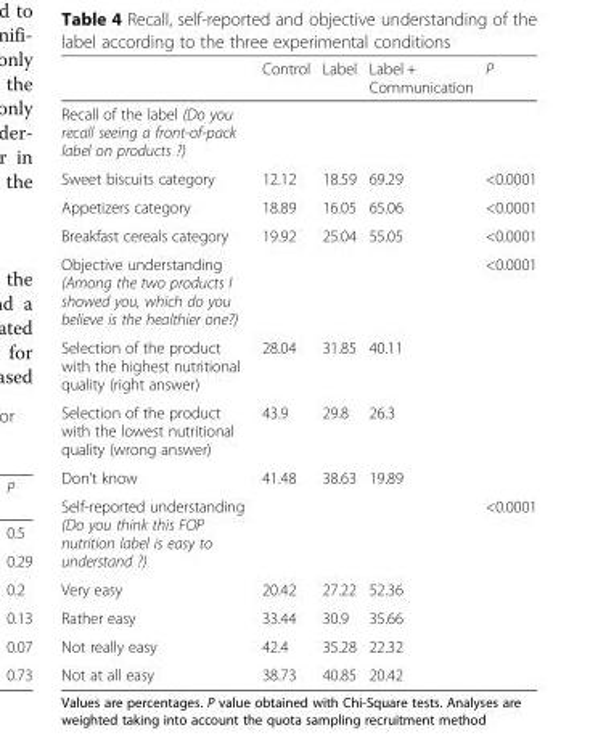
<table><thead><tr><td></td><td>Control</td><td>Label</td><td>Label + Communication</td><td>P</td></tr></thead><tbody><tr><td colspan="5">Recall of the label (Do you recall seeing a front-of-pack label on products ?)</td></tr><tr><td>Sweet biscuits category</td><td>12.12</td><td>18.59</td><td>69.29</td><td>&lt;0.0001</td></tr><tr><td>Appetizers category</td><td>18.89</td><td>16.05</td><td>65.06</td><td>&lt;0.0001</td></tr><tr><td>Breakfast cereals category</td><td>19.92</td><td>25.04</td><td>55.05</td><td>&lt;0.0001</td></tr><tr><td>Objective understanding (Among the two products I showed you, which do you believe is the healthier one?)</td><td></td><td></td><td></td><td>&lt;0.0001</td></tr><tr><td>Selection of the product with the highest nutritional quality (right answer)</td><td>28.04</td><td>31.85</td><td>40.11</td><td></td></tr><tr><td>Selection of the product with the lowest nutritional quality (wrong answer)</td><td>43.9</td><td>29.8</td><td>26.3</td><td></td></tr><tr><td>Don’t know</td><td>41.48</td><td>38.63</td><td>19.89</td><td></td></tr><tr><td>Self-reported understanding (Do you think this FOP nutrition label is easy to understand ?)</td><td></td><td></td><td></td><td>&lt;0.0001</td></tr><tr><td>Very easy</td><td>20.42</td><td>27.22</td><td>52.36</td><td></td></tr><tr><td>Rather easy</td><td>33.44</td><td>30.9</td><td>35.66</td><td></td></tr><tr><td>Not really easy</td><td>42.4</td><td>35.28</td><td>22.32</td><td></td></tr><tr><td>Not at all easy</td><td>38.73</td><td>40.85</td><td>20.42</td><td></td></tr></tbody></table>